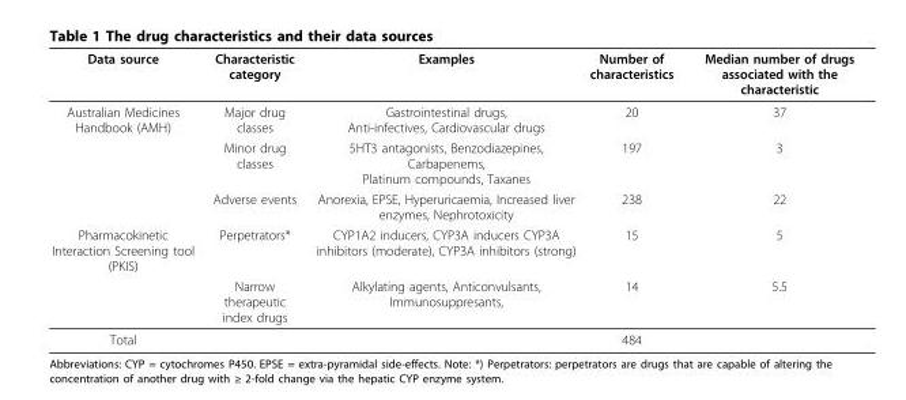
<table><thead><tr><td>Data source</td><td>Characteristic category</td><td>Examples</td><td>Number of characteristics</td><td>Median number of drugs associated with the characteristic</td></tr></thead><tbody><tr><td rowspan="3">Australian Medicines Handbook (AMH)</td><td>Major drug classes</td><td>Gastrointestinal drugs, Anti-infectives, Cardiovascular drugs</td><td>20</td><td>37</td></tr><tr><td>Minor drug classes</td><td>5HT3 antagonists, Benzodiazepines, Carbapenems, Platinum compounds, Taxanes</td><td>197</td><td>3</td></tr><tr><td>Adverse events</td><td>Anorexia, EPSE, Hyperuricaemia, Increased liver enzymes, Nephrotoxicity</td><td>238</td><td>22</td></tr><tr><td rowspan="2">Pharmacokinetic Interaction Screening tool (PKIS)</td><td>Perpetrators*</td><td>CYP1A2 inducers, CYP3A inducers CYP3A inhibitors (moderate), CYP3A inhibitors (strong)</td><td>15</td><td>5</td></tr><tr><td>Narrow therapeutic index drugs</td><td>Alkylating agents, Anticonvulsants, Immunosuppresants,</td><td>14</td><td>5.5</td></tr><tr><td>Total</td><td></td><td></td><td>484</td><td></td></tr></tbody></table>